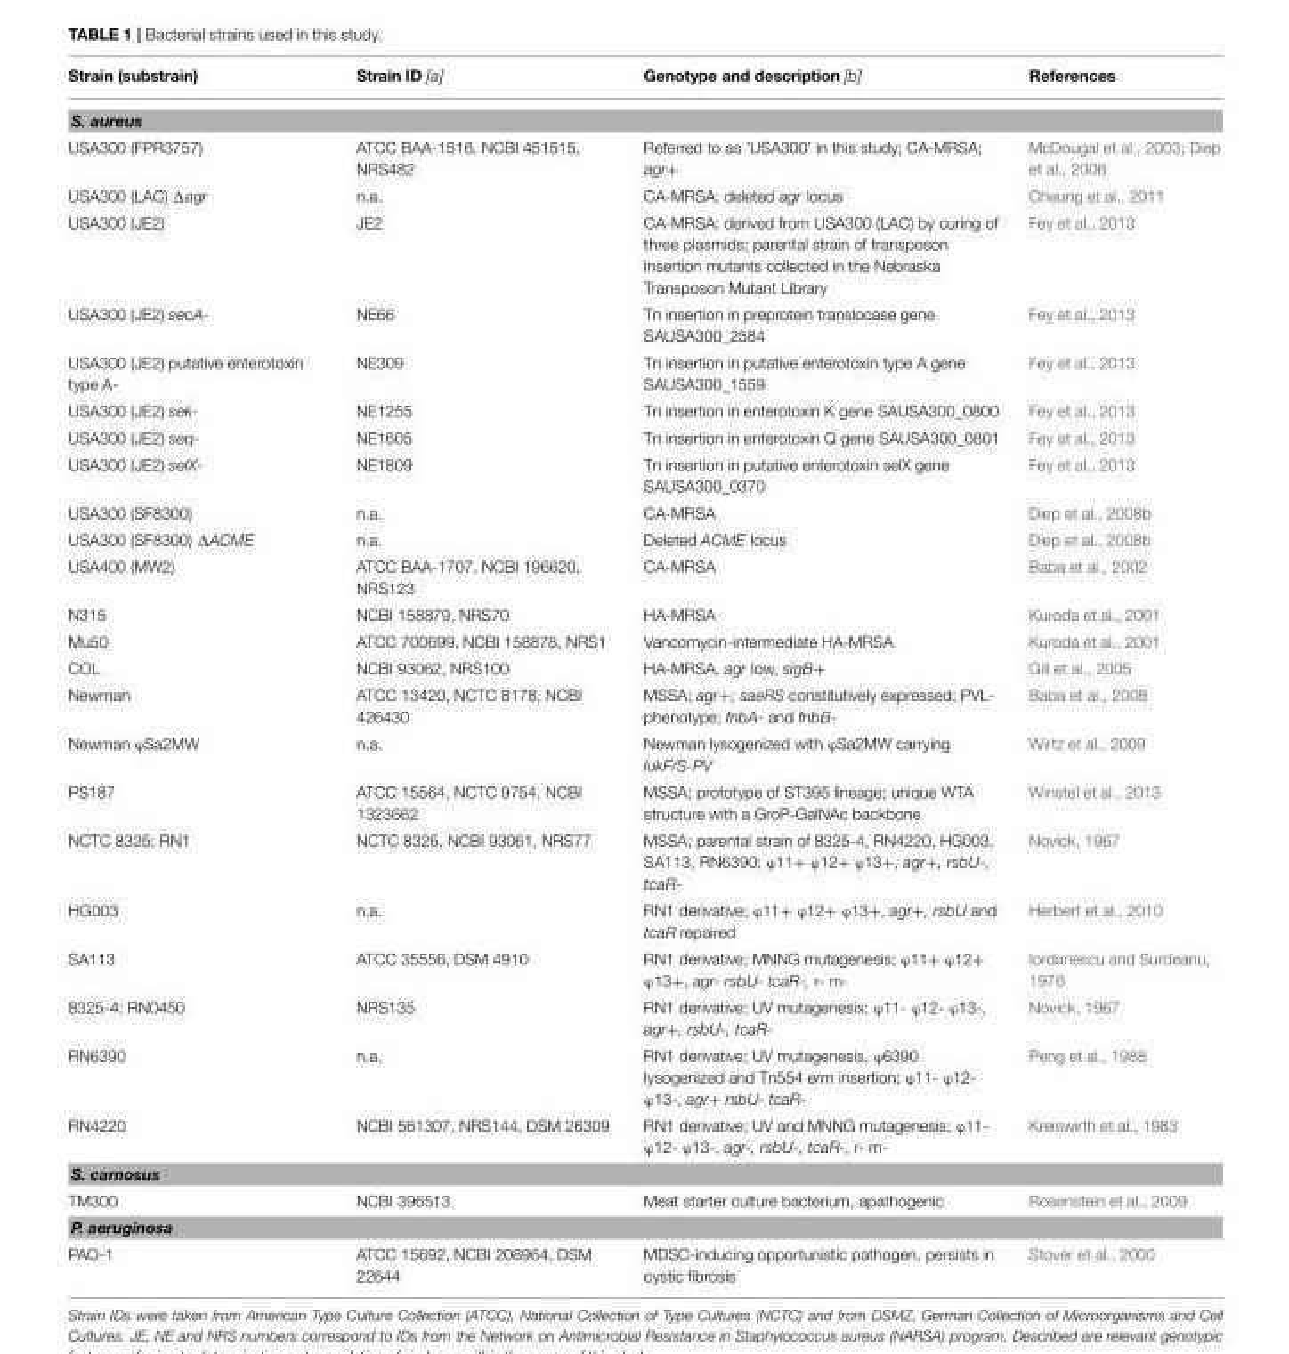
<table><thead><tr><td>Strain (substrain)</td><td>Strain ID [a]</td><td>Genotype and description [b]</td><td>References</td></tr></thead><tbody><tr><td colspan="4">S. aureus</td></tr><tr><td>USA300 (FPR3757)</td><td>ATCC BAA-1516, NCBI 451515, NRS482</td><td>Referred to as ’USA300’ in this study; CA-MRSA; agr+</td><td>McDougal et al., 2003; Diep et al., 2006</td></tr><tr><td>USA300 (LAC) Δagr</td><td>n.a.</td><td>CA-MRSA; deleted agr locus</td><td>Cheung et al., 2011</td></tr><tr><td>USA300 (JE2)</td><td>JE2</td><td>CA-MRSA; derived from USA300 (LAC) by curing of three plasmids; parental strain of transposon insertion mutants collected in the Nebraska Transposon Mutant Library</td><td>Fey et al., 2013</td></tr><tr><td>USA300 (JE2) secA-</td><td>NE66</td><td>Tn insertion in preprotein translocase gene SAUSA300_2584</td><td>Fey et al., 2013</td></tr><tr><td>USA300 (JE2) putative enterotoxin type A-</td><td>NE309</td><td>Tn insertion in putative enterotoxin type A gene SAUSA300_1559</td><td>Fey et al., 2013</td></tr><tr><td>USA300 (JE2) sek-</td><td>NE1255</td><td>Tn insertion in enterotoxin K gene SAUSA300_0800</td><td>Fey et al., 2013</td></tr><tr><td>USA300 (JE2) seq-</td><td>NE1605</td><td>Tn insertion in enterotoxin Q gene SAUSA300_0801</td><td>Fey et al., 2013</td></tr><tr><td>USA300 (JE2) selX-</td><td>NE1809</td><td>Tn insertion in putative enterotoxin selX gene SAUSA300_0370</td><td>Fey et al., 2013</td></tr><tr><td>USA300 (SF8300)</td><td>n.a.</td><td>CA-MRSA</td><td>Diep et al., 2008b</td></tr><tr><td>USA300 (SF8300) ΔACME</td><td>n.a.</td><td>Deleted ACME locus</td><td>Diep et al., 2008b</td></tr><tr><td>USA400 (MW2)</td><td>ATCC BAA-1707, NCBI 196620, NRS123</td><td>CA-MRSA</td><td>Baba et al., 2002</td></tr><tr><td>N315</td><td>NCBI 158879, NRS70</td><td>HA-MRSA</td><td>Kuroda et al., 2001</td></tr><tr><td>Mu50</td><td>ATCC 700699, NCBI 158878, NRS1</td><td>Vancomycin-intermediate HA-MRSA</td><td>Kuroda et al., 2001</td></tr><tr><td>COL</td><td>NCBI 93062, NRS100</td><td>HA-MRSA, agr low, sigB+</td><td>Gill et al., 2005</td></tr><tr><td>Newman</td><td>ATCC 13420, NCTC 8178, NCBI 426430</td><td>MSSA; agr+; saeRS constitutively expressed; PVL- phenotype; fnbA- and fnbB-</td><td>Baba et al., 2008</td></tr><tr><td>Newman ϕSa2MW</td><td>n.a.</td><td>Newman lysogenized with ϕSa2MW carrying lukF/S-PV</td><td>Wirtz et al., 2009</td></tr><tr><td>PS187</td><td>ATCC 15564, NCTC 9754, NCBI 1323662</td><td>MSSA; prototype of ST395 lineage; unique WTA structure with a GroP-GalNAc backbone</td><td>Winstel et al., 2013</td></tr><tr><td>NCTC 8325; RN1</td><td>NCTC 8325, NCBI 93061, NRS77</td><td>MSSA; parental strain of 8325-4, RN4220, HG003, SA113, RN6390; ϕ11+ ϕ12+ ϕ13+, agr+, rsbU-, tcaR-</td><td>Novick, 1967</td></tr><tr><td>HG003</td><td>n.a.</td><td>RN1 derivative; ϕ11+ ϕ12+ ϕ13+, agr+, rsbU and tcaR repaired</td><td>Herbert et al., 2010</td></tr><tr><td>SA113</td><td>ATCC 35556, DSM 4910</td><td>RN1 derivative; MNNG mutagenesis; ϕ11+ ϕ12+ ϕ13+, agr- rsbU- tcaR-, r- m-</td><td>Iordanescu and Surdeanu, 1976</td></tr><tr><td>8325-4; RN0450</td><td>NRS135</td><td>RN1 derivative; UV mutagenesis; ϕ11- ϕ12- ϕ13-, agr+, rsbU-, tcaR-</td><td>Novick, 1967</td></tr><tr><td>RN6390</td><td>n.a.</td><td>RN1 derivative; UV mutagenesis, ϕ6390 lysogenized and Tn554 erm insertion; ϕ11- ϕ12- ϕ13-, agr+ rsbU- tcaR-</td><td>Peng et al., 1988</td></tr><tr><td>RN4220</td><td>NCBI 561307, NRS144, DSM 26309</td><td>RN1 derivative; UV and MNNG mutagenesis; ϕ11- ϕ12- ϕ13-, agr-, rsbU-, tcaR-, r- m-</td><td>Kreiswirth et al., 1983</td></tr><tr><td colspan="4">S. carnosus</td></tr><tr><td>TM300</td><td>NCBI 396513</td><td>Meat starter culture bacterium, apathogenic</td><td>Rosenstein et al., 2009</td></tr><tr><td colspan="4">P. aeruginosa</td></tr><tr><td>PAO-1</td><td>ATCC 15692, NCBI 208964, DSM 22644</td><td>MDSC-inducing opportunistic pathogen, persists in cystic fibrosis</td><td>Stover et al., 2000</td></tr></tbody></table>